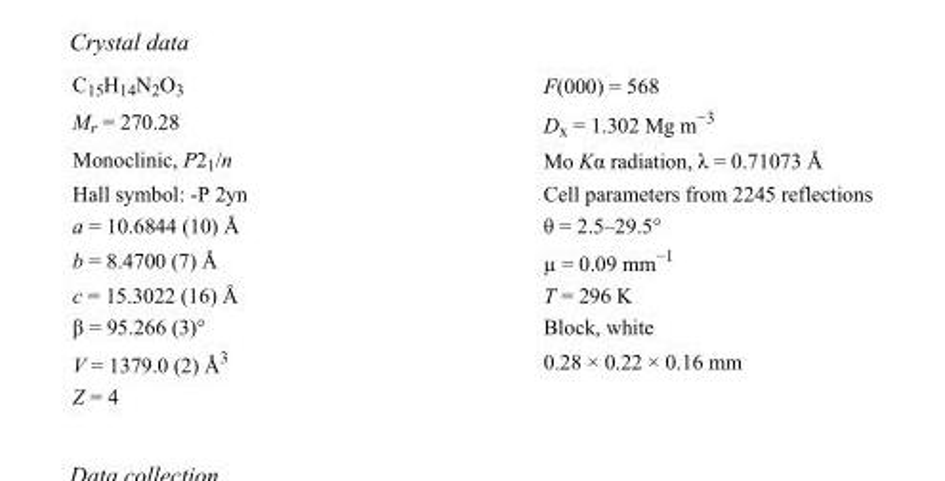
<table><tbody><tr><td>C<sub>15</sub>H<sub>14</sub>N<sub>2</sub>O<sub>3</sub></td><td>F(000) = 568</td></tr><tr><td>M<sub>r</sub> = 270.28</td><td>D<sub>x</sub> = 1.302 Mg m<sup>−3</sup></td></tr><tr><td>Monoclinic, P2<sub>1</sub>/n</td><td>Mo Kα radiation, λ = 0.71073 Å</td></tr><tr><td>Hall symbol: -P 2yn</td><td>Cell parameters from 2245 reflections</td></tr><tr><td>a = 10.6844 (10) Å</td><td>θ = 2.5–29.5°</td></tr><tr><td>b = 8.4700 (7) Å</td><td>µ = 0.09 mm<sup>−1</sup></td></tr><tr><td>c = 15.3022 (16) Å</td><td>T = 296 K</td></tr><tr><td>β = 95.266 (3)°</td><td>Block, white</td></tr><tr><td>V = 1379.0 (2) Å<sup>3</sup></td><td>0.28 × 0.22 × 0.16 mm</td></tr><tr><td>Z = 4</td><td></td></tr></tbody></table>